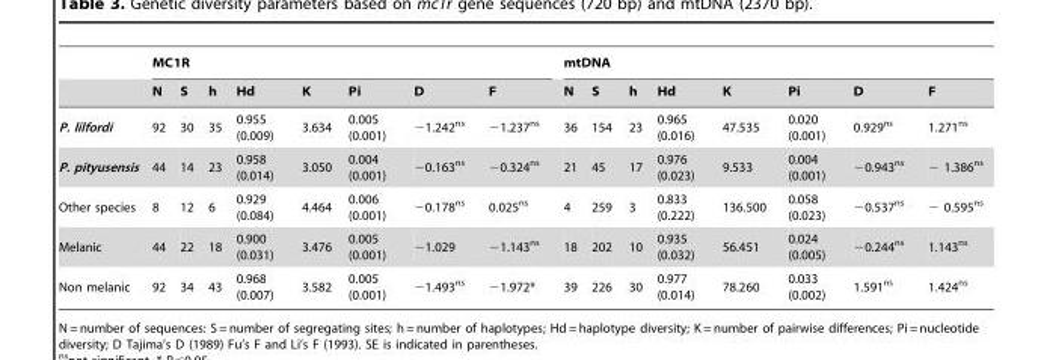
<table><thead><tr><td rowspan="2"></td><td colspan="8">MC1R</td><td colspan="8">mtDNA</td></tr><tr><td>N</td><td>S</td><td>h</td><td>Hd</td><td>K</td><td>Pi</td><td>D</td><td>F</td><td>N</td><td>S</td><td>h</td><td>Hd</td><td>K</td><td>Pi</td><td>D</td><td>F</td></tr></thead><tbody><tr><td>P. lilfordi</td><td>92</td><td>30</td><td>35</td><td>0.955 (0.009)</td><td>3.634</td><td>0.005 (0.001)</td><td>−1.242<sup>ns</sup></td><td>−1.237<sup>ns</sup></td><td>36</td><td>154</td><td>23</td><td>0.965 (0.016)</td><td>47.535</td><td>0.020 (0.001)</td><td>0.929<sup>ns</sup></td><td>1.271<sup>ns</sup></td></tr><tr><td>P. pityusensis</td><td>44</td><td>14</td><td>23</td><td>0.958 (0.014)</td><td>3.050</td><td>0.004 (0.001)</td><td>−0.163<sup>ns</sup></td><td>−0.324<sup>ns</sup></td><td>21</td><td>45</td><td>17</td><td>0.976 (0.023)</td><td>9.533</td><td>0.004 (0.001)</td><td>−0.943<sup>ns</sup></td><td>− 1.386<sup>ns</sup></td></tr><tr><td>Other species</td><td>8</td><td>12</td><td>6</td><td>0.929 (0.084)</td><td>4.464</td><td>0.006 (0.001)</td><td>−0.178<sup>ns</sup></td><td>0.025<sup>ns</sup></td><td>4</td><td>259</td><td>3</td><td>0.833 (0.222)</td><td>136.500</td><td>0.058 (0.023)</td><td>−0.537<sup>ns</sup></td><td>− 0.595<sup>ns</sup></td></tr><tr><td>Melanic</td><td>44</td><td>22</td><td>18</td><td>0.900 (0.031)</td><td>3.476</td><td>0.005 (0.001)</td><td>−1.029</td><td>−1.143<sup>ns</sup></td><td>18</td><td>202</td><td>10</td><td>0.935 (0.032)</td><td>56.451</td><td>0.024 (0.005)</td><td>−0.244<sup>ns</sup></td><td>1.143<sup>ns</sup></td></tr><tr><td>Non melanic</td><td>92</td><td>34</td><td>43</td><td>0.968 (0.007)</td><td>3.582</td><td>0.005 (0.001)</td><td>−1.493<sup>ns</sup></td><td>−1.972*</td><td>39</td><td>226</td><td>30</td><td>0.977 (0.014)</td><td>78.260</td><td>0.033 (0.002)</td><td>1.591<sup>ns</sup></td><td>1.424<sup>ns</sup></td></tr></tbody></table>